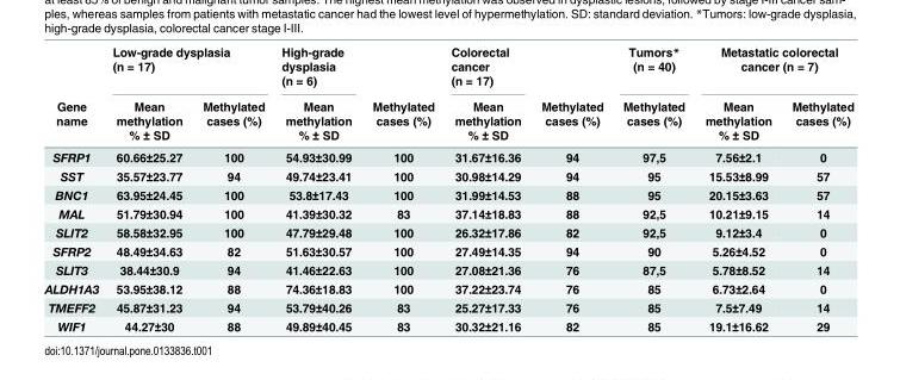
<table><thead><tr><td rowspan="2">Gene name</td><td colspan="2">Low-grade dysplasia (n = 17)</td><td rowspan="2">High-grade dysplasia (n = 6) Mean methylation % ± SD</td><td rowspan="2">Methylated cases (%)</td><td rowspan="2">Colorectal cancer (n = 17) Mean methylation % ± SD</td><td rowspan="2">Methylated cases (%)</td><td rowspan="2">Tumors* (n = 40) Methylated cases (%)</td><td colspan="2">Metastatic colorectal cancer (n = 7)</td></tr><tr><td>Mean methylation % ± SD</td><td>Methylated cases (%)</td><td>Mean methylation % ± SD</td><td>Methylated cases (%)</td></tr></thead><tbody><tr><td>SFRP1</td><td>60.66±25.27</td><td>100</td><td>54.93±30.99</td><td>100</td><td>31.67±16.36</td><td>94</td><td>97,5</td><td>7.56±2.1</td><td>0</td></tr><tr><td>SST</td><td>35.57±23.77</td><td>94</td><td>49.74±23.41</td><td>100</td><td>30.98±14.29</td><td>94</td><td>95</td><td>15.53±8.99</td><td>57</td></tr><tr><td>BNC1</td><td>63.95±24.45</td><td>100</td><td>53.8±17.43</td><td>100</td><td>31.99±14.53</td><td>88</td><td>95</td><td>20.15±3.63</td><td>57</td></tr><tr><td>MAL</td><td>51.79±30.94</td><td>100</td><td>41.39±30.32</td><td>83</td><td>37.14±18.83</td><td>88</td><td>92,5</td><td>10.21±9.15</td><td>14</td></tr><tr><td>SLIT2</td><td>58.58±32.95</td><td>100</td><td>47.79±29.48</td><td>100</td><td>26.32±17.86</td><td>82</td><td>92,5</td><td>9.12±3.4</td><td>0</td></tr><tr><td>SFRP2</td><td>48.49±34.63</td><td>82</td><td>51.63±30.57</td><td>100</td><td>27.49±14.35</td><td>94</td><td>90</td><td>5.26±4.52</td><td>0</td></tr><tr><td>SLIT3</td><td>38.44±30.9</td><td>94</td><td>41.46±22.63</td><td>100</td><td>27.08±21.36</td><td>76</td><td>87,5</td><td>5.78±8.52</td><td>14</td></tr><tr><td>ALDH1A3</td><td>53.95±38.12</td><td>88</td><td>74.36±18.83</td><td>100</td><td>37.22±23.74</td><td>76</td><td>85</td><td>6.73±2.64</td><td>0</td></tr><tr><td>TMEFF2</td><td>45.87±31.23</td><td>94</td><td>53.79±40.26</td><td>83</td><td>25.27±17.33</td><td>76</td><td>85</td><td>7.5±7.49</td><td>14</td></tr><tr><td>WIF1</td><td>44.27±30</td><td>88</td><td>49.89±40.45</td><td>83</td><td>30.32±21.16</td><td>82</td><td>85</td><td>19.1±16.62</td><td>29</td></tr></tbody></table>